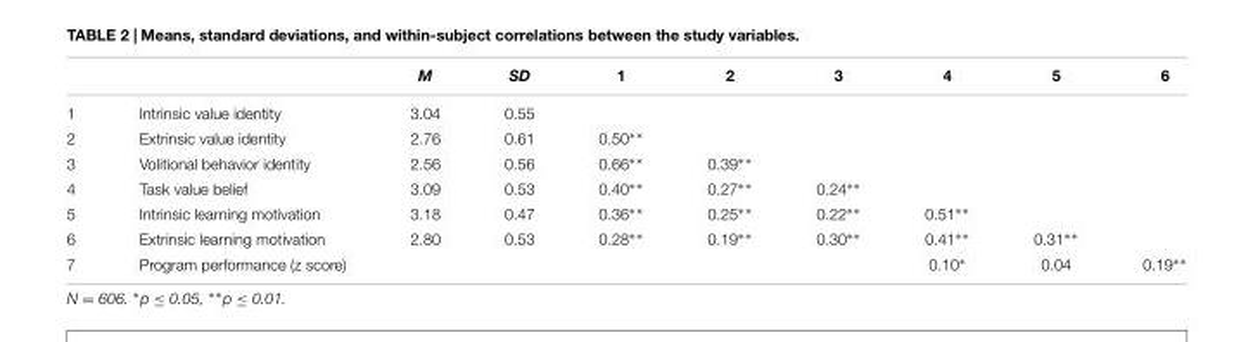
<table><thead><tr><td></td><td></td><td>M</td><td>SD</td><td>1</td><td>2</td><td>3</td><td>4</td><td>5</td><td>6</td></tr></thead><tbody><tr><td>1</td><td>Intrinsic value identity</td><td>3.04</td><td>0.55</td><td></td><td></td><td></td><td></td><td></td><td></td></tr><tr><td>2</td><td>Extrinsic value identity</td><td>2.76</td><td>0.61</td><td>0.50∗∗</td><td></td><td></td><td></td><td></td><td></td></tr><tr><td>3</td><td>Volitional behavior identity</td><td>2.56</td><td>0.56</td><td>0.66∗∗</td><td>0.39∗∗</td><td></td><td></td><td></td><td></td></tr><tr><td>4</td><td>Task value belief</td><td>3.09</td><td>0.53</td><td>0.40∗∗</td><td>0.27∗∗</td><td>0.24∗∗</td><td></td><td></td><td></td></tr><tr><td>5</td><td>Intrinsic learning motivation</td><td>3.18</td><td>0.47</td><td>0.36∗∗</td><td>0.25∗∗</td><td>0.22∗∗</td><td>0.51∗∗</td><td></td><td></td></tr><tr><td>6</td><td>Extrinsic learning motivation</td><td>2.80</td><td>0.53</td><td>0.28∗∗</td><td>0.19∗∗</td><td>0.30∗∗</td><td>0.41∗∗</td><td>0.31∗∗</td><td></td></tr><tr><td>7</td><td>Program performance (z score)</td><td></td><td></td><td></td><td></td><td></td><td>0.10∗</td><td>0.04</td><td>0.19∗∗</td></tr></tbody></table>